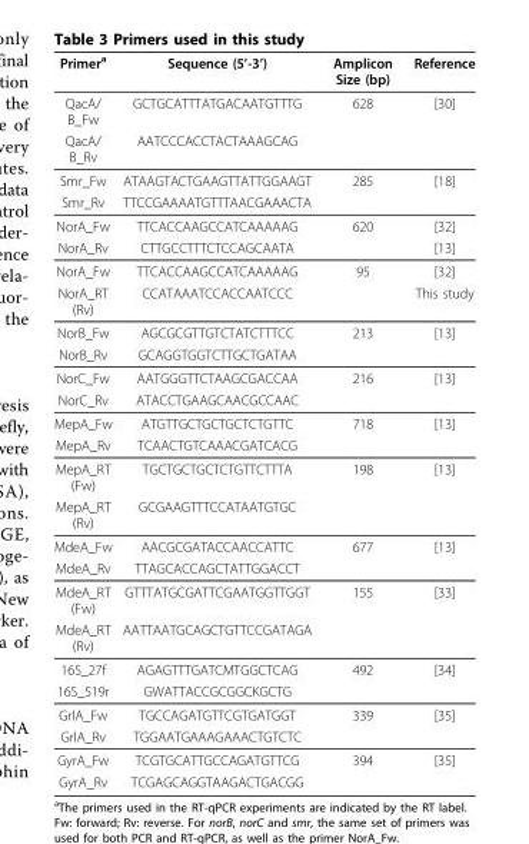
<table><thead><tr><td>Primer<sup>a</sup></td><td>Sequence (5’-3’)</td><td>Amplicon Size (bp)</td><td>Reference</td></tr></thead><tbody><tr><td>QacA/ B_Fw</td><td>GCTGCATTTATGACAATGTTTG</td><td>628</td><td>[30]</td></tr><tr><td>QacA/ B_Rv</td><td>AATCCCACCTACTAAAGCAG</td><td></td><td></td></tr><tr><td>Smr_Fw</td><td>ATAAGTACTGAAGTTATTGGAAGT</td><td>285</td><td>[18]</td></tr><tr><td>Smr_Rv</td><td>TTCCGAAAATGTTTAACGAAACTA</td><td></td><td></td></tr><tr><td>NorA_Fw</td><td>TTCACCAAGCCATCAAAAAG</td><td>620</td><td>[32]</td></tr><tr><td>NorA_Rv</td><td>CTTGCCTTTCTCCAGCAATA</td><td></td><td>[13]</td></tr><tr><td>NorA_Fw</td><td>TTCACCAAGCCATCAAAAAG</td><td>95</td><td>[32]</td></tr><tr><td>NorA_RT (Rv)</td><td>CCATAAATCCACCAATCCC</td><td></td><td>This study</td></tr><tr><td>NorB_Fw</td><td>AGCGCGTTGTCTATCTTTCC</td><td>213</td><td>[13]</td></tr><tr><td>NorB_Rv</td><td>GCAGGTGGTCTTGCTGATAA</td><td></td><td></td></tr><tr><td>NorC_Fw</td><td>AATGGGTTCTAAGCGACCAA</td><td>216</td><td>[13]</td></tr><tr><td>NorC_Rv</td><td>ATACCTGAAGCAACGCCAAC</td><td></td><td></td></tr><tr><td>MepA_Fw</td><td>ATGTTGCTGCTGCTCTGTTC</td><td>718</td><td>[13]</td></tr><tr><td>MepA_Rv</td><td>TCAACTGTCAAACGATCACG</td><td></td><td></td></tr><tr><td>MepA_RT (Fw)</td><td>TGCTGCTGCTCTGTTCTTTA</td><td>198</td><td>[13]</td></tr><tr><td>MepA_RT (Rv)</td><td>GCGAAGTTTCCATAATGTGC</td><td></td><td></td></tr><tr><td>MdeA_Fw</td><td>AACGCGATACCAACCATTC</td><td>677</td><td>[13]</td></tr><tr><td>MdeA_Rv</td><td>TTAGCACCAGCTATTGGACCT</td><td></td><td></td></tr><tr><td>MdeA_RT (Fw)</td><td>GTTTATGCGATTCGAATGGTTGGT</td><td>155</td><td>[33]</td></tr><tr><td>MdeA_RT (Rv)</td><td>AATTAATGCAGCTGTTCCGATAGA</td><td></td><td></td></tr><tr><td>16S_27f</td><td>AGAGTTTGATCMTGGCTCAG</td><td>492</td><td>[34]</td></tr><tr><td>16S_519r</td><td>GWATTACCGCGGCKGCTG</td><td></td><td></td></tr><tr><td>GrlA_Fw</td><td>TGCCAGATGTTCGTGATGGT</td><td>339</td><td>[35]</td></tr><tr><td>GrlA_Rv</td><td>TGGAATGAAAGAAACTGTCTC</td><td></td><td></td></tr><tr><td>GyrA_Fw</td><td>TCGTGCATTGCCAGATGTTCG</td><td>394</td><td>[35]</td></tr><tr><td>GyrA_Rv</td><td>TCGAGCAGGTAAGACTGACGG</td><td></td><td></td></tr></tbody></table>